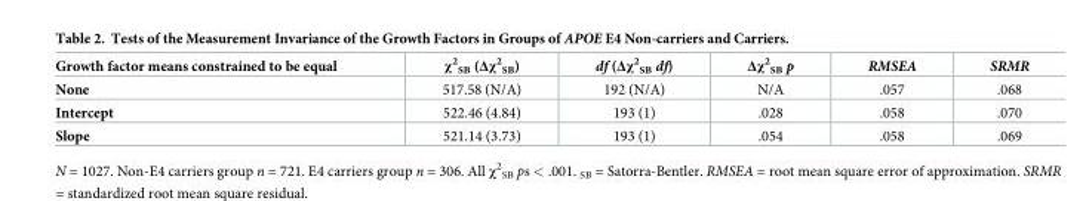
<table><thead><tr><td>Growth factor means constrained to be equal</td><td>χ<sup>2</sup> <sub>SB</sub> (Δχ<sup>2</sup> <sub>SB</sub>)</td><td>df (Δχ<sup>2</sup> <sub>SB</sub> df)</td><td>Δχ<sup>2</sup> <sub>SB</sub> p</td><td>RMSEA</td><td>SRMR</td></tr></thead><tbody><tr><td>None</td><td>517.58 (N/A)</td><td>192 (N/A)</td><td>N/A</td><td>.057</td><td>.068</td></tr><tr><td>Intercept</td><td>522.46 (4.84)</td><td>193 (1)</td><td>.028</td><td>.058</td><td>.070</td></tr><tr><td>Slope</td><td>521.14 (3.73)</td><td>193 (1)</td><td>.054</td><td>.058</td><td>.069</td></tr></tbody></table>